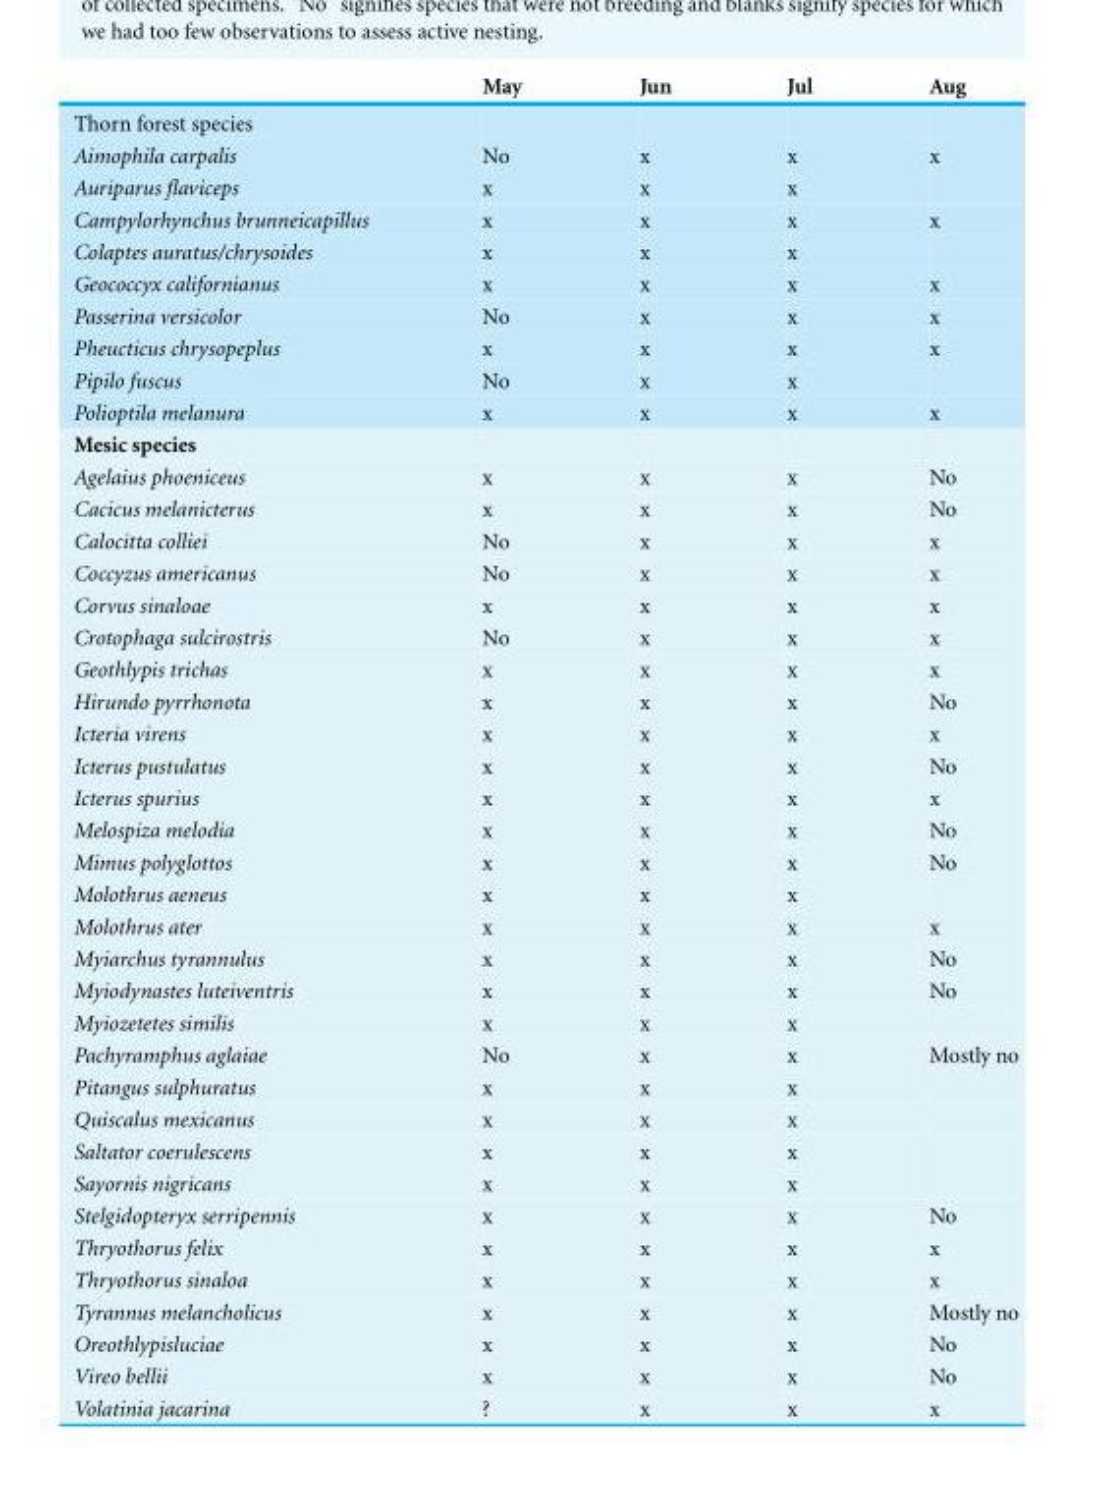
<table><thead><tr><td></td><td>May</td><td>Jun</td><td>Jul</td><td>Aug</td></tr></thead><tbody><tr><td colspan="5">Thorn forest species</td></tr><tr><td>Aimophila carpalis</td><td>No</td><td>x</td><td>x</td><td>x</td></tr><tr><td>Auriparus flaviceps</td><td>x</td><td>x</td><td>x</td><td></td></tr><tr><td>Campylorhynchus brunneicapillus</td><td>x</td><td>x</td><td>x</td><td>x</td></tr><tr><td>Colaptes auratus/chrysoides</td><td>x</td><td>x</td><td>x</td><td></td></tr><tr><td>Geococcyx californianus</td><td>x</td><td>x</td><td>x</td><td>x</td></tr><tr><td>Passerina versicolor</td><td>No</td><td>x</td><td>x</td><td>x</td></tr><tr><td>Pheucticus chrysopeplus</td><td>x</td><td>x</td><td>x</td><td>x</td></tr><tr><td>Pipilo fuscus</td><td>No</td><td>x</td><td>x</td><td></td></tr><tr><td>Polioptila melanura</td><td>x</td><td>x</td><td>x</td><td>x</td></tr><tr><td colspan="5">Mesic species</td></tr><tr><td>Agelaius phoeniceus</td><td>x</td><td>x</td><td>x</td><td>No</td></tr><tr><td>Cacicus melanicterus</td><td>x</td><td>x</td><td>x</td><td>No</td></tr><tr><td>Calocitta colliei</td><td>No</td><td>x</td><td>x</td><td>x</td></tr><tr><td>Coccyzus americanus</td><td>No</td><td>x</td><td>x</td><td>x</td></tr><tr><td>Corvus sinaloae</td><td>x</td><td>x</td><td>x</td><td>x</td></tr><tr><td>Crotophaga sulcirostris</td><td>No</td><td>x</td><td>x</td><td>x</td></tr><tr><td>Geothlypis trichas</td><td>x</td><td>x</td><td>x</td><td>x</td></tr><tr><td>Hirundo pyrrhonota</td><td>x</td><td>x</td><td>x</td><td>No</td></tr><tr><td>Icteria virens</td><td>x</td><td>x</td><td>x</td><td>x</td></tr><tr><td>Icterus pustulatus</td><td>x</td><td>x</td><td>x</td><td>No</td></tr><tr><td>Icterus spurius</td><td>x</td><td>x</td><td>x</td><td>x</td></tr><tr><td>Melospiza melodia</td><td>x</td><td>x</td><td>x</td><td>No</td></tr><tr><td>Mimus polyglottos</td><td>x</td><td>x</td><td>x</td><td>No</td></tr><tr><td>Molothrus aeneus</td><td>x</td><td>x</td><td>x</td><td></td></tr><tr><td>Molothrus ater</td><td>x</td><td>x</td><td>x</td><td>x</td></tr><tr><td>Myiarchus tyrannulus</td><td>x</td><td>x</td><td>x</td><td>No</td></tr><tr><td>Myiodynastes luteiventris</td><td>x</td><td>x</td><td>x</td><td>No</td></tr><tr><td>Myiozetetes similis</td><td>x</td><td>x</td><td>x</td><td></td></tr><tr><td>Pachyramphus aglaiae</td><td>No</td><td>x</td><td>x</td><td>Mostly no</td></tr><tr><td>Pitangus sulphuratus</td><td>x</td><td>x</td><td>x</td><td></td></tr><tr><td>Quiscalus mexicanus</td><td>x</td><td>x</td><td>x</td><td></td></tr><tr><td>Saltator coerulescens</td><td>x</td><td>x</td><td>x</td><td></td></tr><tr><td>Sayornis nigricans</td><td>x</td><td>x</td><td>x</td><td></td></tr><tr><td>Stelgidopteryx serripennis</td><td>x</td><td>x</td><td>x</td><td>No</td></tr><tr><td>Thryothorus felix</td><td>x</td><td>x</td><td>x</td><td>x</td></tr><tr><td>Thryothorus sinaloa</td><td>x</td><td>x</td><td>x</td><td>x</td></tr><tr><td>Tyrannus melancholicus</td><td>x</td><td>x</td><td>x</td><td>Mostly no</td></tr><tr><td>Oreothlypisluciae</td><td>x</td><td>x</td><td>x</td><td>No</td></tr><tr><td>Vireo bellii</td><td>x</td><td>x</td><td>x</td><td>No</td></tr><tr><td>Volatinia jacarina</td><td>?</td><td>x</td><td>x</td><td>x</td></tr></tbody></table>